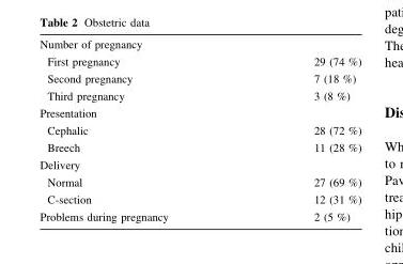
<table><tbody><tr><td colspan="2">Number of pregnancy</td></tr><tr><td>First pregnancy</td><td>29 (74 %)</td></tr><tr><td>Second pregnancy</td><td>7 (18 %)</td></tr><tr><td>Third pregnancy</td><td>3 (8 %)</td></tr><tr><td colspan="2">Presentation</td></tr><tr><td>Cephalic Breech</td><td>28 (72 %) 11 (28 %)</td></tr><tr><td colspan="2">Delivery</td></tr><tr><td>Normal</td><td>27 (69 %)</td></tr><tr><td>C-section</td><td>12 (31 %)</td></tr><tr><td>Problems during pregnancy</td><td>2 (5 %)</td></tr></tbody></table>